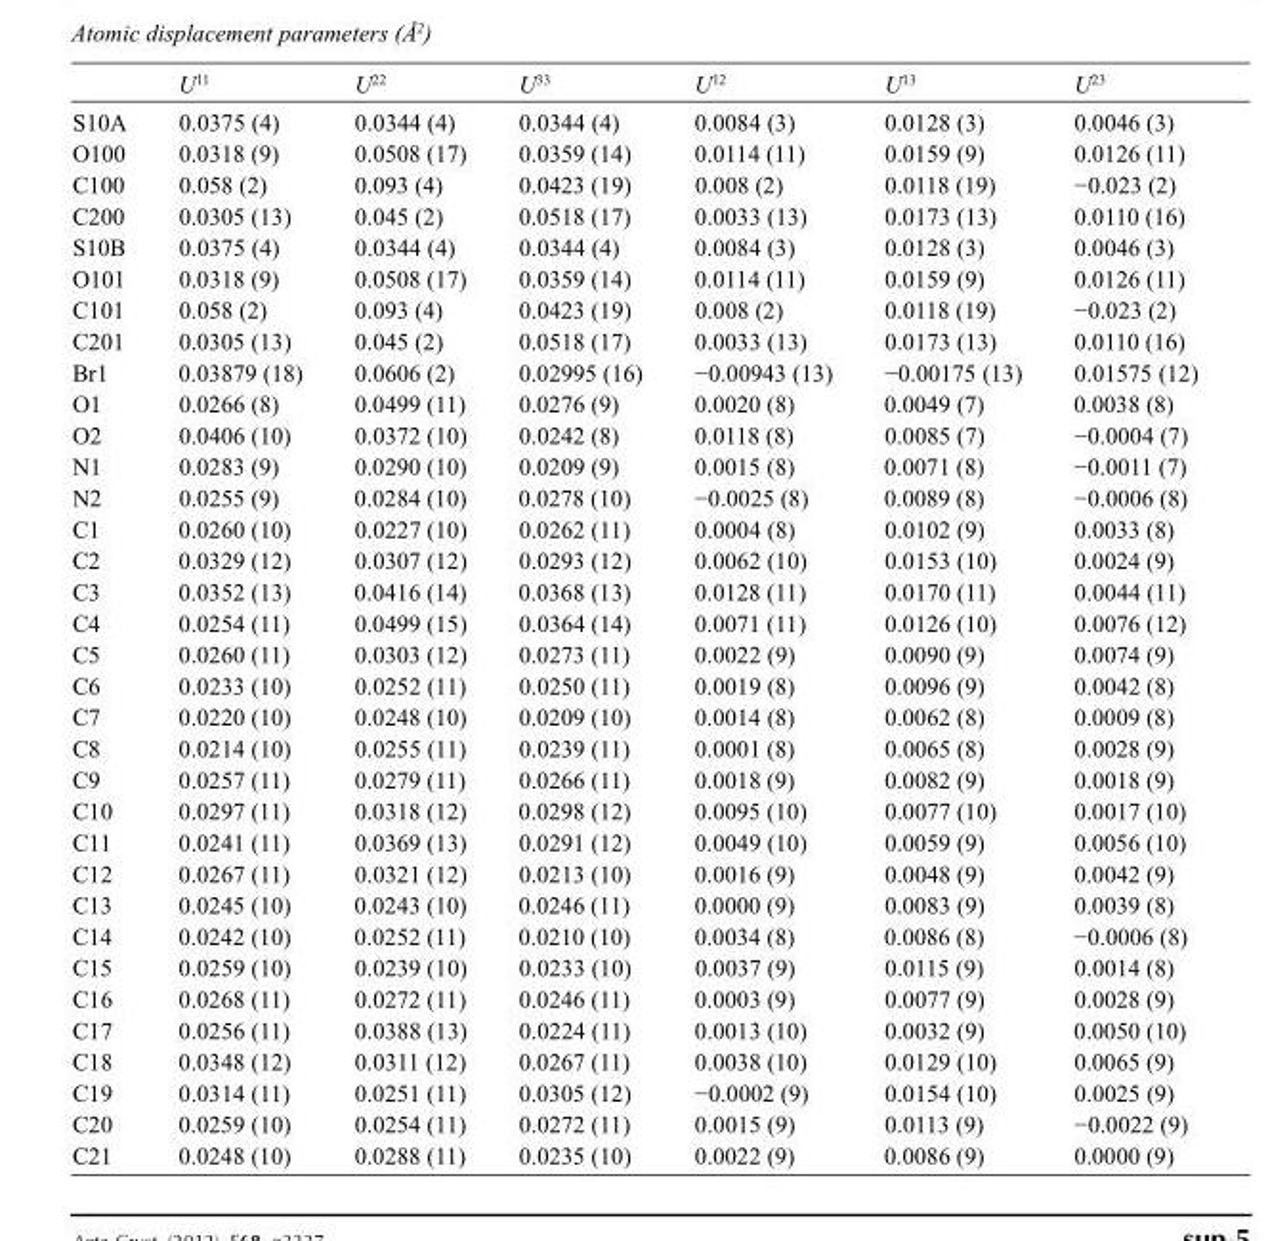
<table><thead><tr><td></td><td>U<sup>11</sup></td><td>U<sup>22</sup></td><td>U<sup>33</sup></td><td>U<sup>12</sup></td><td>U<sup>13</sup></td><td>U<sup>23</sup></td></tr></thead><tbody><tr><td>S10A</td><td>0.0375 (4)</td><td>0.0344 (4)</td><td>0.0344 (4)</td><td>0.0084 (3)</td><td>0.0128 (3)</td><td>0.0046 (3)</td></tr><tr><td>O100</td><td>0.0318 (9)</td><td>0.0508 (17)</td><td>0.0359 (14)</td><td>0.0114 (11)</td><td>0.0159 (9)</td><td>0.0126 (11)</td></tr><tr><td>C100</td><td>0.058 (2)</td><td>0.093 (4)</td><td>0.0423 (19)</td><td>0.008 (2)</td><td>0.0118 (19)</td><td>−0.023 (2)</td></tr><tr><td>C200</td><td>0.0305 (13)</td><td>0.045 (2)</td><td>0.0518 (17)</td><td>0.0033 (13)</td><td>0.0173 (13)</td><td>0.0110 (16)</td></tr><tr><td>S10B</td><td>0.0375 (4)</td><td>0.0344 (4)</td><td>0.0344 (4)</td><td>0.0084 (3)</td><td>0.0128 (3)</td><td>0.0046 (3)</td></tr><tr><td>O101</td><td>0.0318 (9)</td><td>0.0508 (17)</td><td>0.0359 (14)</td><td>0.0114 (11)</td><td>0.0159 (9)</td><td>0.0126 (11)</td></tr><tr><td>C101</td><td>0.058 (2)</td><td>0.093 (4)</td><td>0.0423 (19)</td><td>0.008 (2)</td><td>0.0118 (19)</td><td>−0.023 (2)</td></tr><tr><td>C201</td><td>0.0305 (13)</td><td>0.045 (2)</td><td>0.0518 (17)</td><td>0.0033 (13)</td><td>0.0173 (13)</td><td>0.0110 (16)</td></tr><tr><td>Br1</td><td>0.03879 (18)</td><td>0.0606 (2)</td><td>0.02995 (16)</td><td>−0.00943 (13)</td><td>−0.00175 (13)</td><td>0.01575 (12)</td></tr><tr><td>O1</td><td>0.0266 (8)</td><td>0.0499 (11)</td><td>0.0276 (9)</td><td>0.0020 (8)</td><td>0.0049 (7)</td><td>0.0038 (8)</td></tr><tr><td>O2</td><td>0.0406 (10)</td><td>0.0372 (10)</td><td>0.0242 (8)</td><td>0.0118 (8)</td><td>0.0085 (7)</td><td>−0.0004 (7)</td></tr><tr><td>N1</td><td>0.0283 (9)</td><td>0.0290 (10)</td><td>0.0209 (9)</td><td>0.0015 (8)</td><td>0.0071 (8)</td><td>−0.0011 (7)</td></tr><tr><td>N2</td><td>0.0255 (9)</td><td>0.0284 (10)</td><td>0.0278 (10)</td><td>−0.0025 (8)</td><td>0.0089 (8)</td><td>−0.0006 (8)</td></tr><tr><td>C1</td><td>0.0260 (10)</td><td>0.0227 (10)</td><td>0.0262 (11)</td><td>0.0004 (8)</td><td>0.0102 (9)</td><td>0.0033 (8)</td></tr><tr><td>C2</td><td>0.0329 (12)</td><td>0.0307 (12)</td><td>0.0293 (12)</td><td>0.0062 (10)</td><td>0.0153 (10)</td><td>0.0024 (9)</td></tr><tr><td>C3</td><td>0.0352 (13)</td><td>0.0416 (14)</td><td>0.0368 (13)</td><td>0.0128 (11)</td><td>0.0170 (11)</td><td>0.0044 (11)</td></tr><tr><td>C4</td><td>0.0254 (11)</td><td>0.0499 (15)</td><td>0.0364 (14)</td><td>0.0071 (11)</td><td>0.0126 (10)</td><td>0.0076 (12)</td></tr><tr><td>C5</td><td>0.0260 (11)</td><td>0.0303 (12)</td><td>0.0273 (11)</td><td>0.0022 (9)</td><td>0.0090 (9)</td><td>0.0074 (9)</td></tr><tr><td>C6</td><td>0.0233 (10)</td><td>0.0252 (11)</td><td>0.0250 (11)</td><td>0.0019 (8)</td><td>0.0096 (9)</td><td>0.0042 (8)</td></tr><tr><td>C7</td><td>0.0220 (10)</td><td>0.0248 (10)</td><td>0.0209 (10)</td><td>0.0014 (8)</td><td>0.0062 (8)</td><td>0.0009 (8)</td></tr><tr><td>C8</td><td>0.0214 (10)</td><td>0.0255 (11)</td><td>0.0239 (11)</td><td>0.0001 (8)</td><td>0.0065 (8)</td><td>0.0028 (9)</td></tr><tr><td>C9</td><td>0.0257 (11)</td><td>0.0279 (11)</td><td>0.0266 (11)</td><td>0.0018 (9)</td><td>0.0082 (9)</td><td>0.0018 (9)</td></tr><tr><td>C10</td><td>0.0297 (11)</td><td>0.0318 (12)</td><td>0.0298 (12)</td><td>0.0095 (10)</td><td>0.0077 (10)</td><td>0.0017 (10)</td></tr><tr><td>C11</td><td>0.0241 (11)</td><td>0.0369 (13)</td><td>0.0291 (12)</td><td>0.0049 (10)</td><td>0.0059 (9)</td><td>0.0056 (10)</td></tr><tr><td>C12</td><td>0.0267 (11)</td><td>0.0321 (12)</td><td>0.0213 (10)</td><td>0.0016 (9)</td><td>0.0048 (9)</td><td>0.0042 (9)</td></tr><tr><td>C13</td><td>0.0245 (10)</td><td>0.0243 (10)</td><td>0.0246 (11)</td><td>0.0000 (9)</td><td>0.0083 (9)</td><td>0.0039 (8)</td></tr><tr><td>C14</td><td>0.0242 (10)</td><td>0.0252 (11)</td><td>0.0210 (10)</td><td>0.0034 (8)</td><td>0.0086 (8)</td><td>−0.0006 (8)</td></tr><tr><td>C15</td><td>0.0259 (10)</td><td>0.0239 (10)</td><td>0.0233 (10)</td><td>0.0037 (9)</td><td>0.0115 (9)</td><td>0.0014 (8)</td></tr><tr><td>C16</td><td>0.0268 (11)</td><td>0.0272 (11)</td><td>0.0246 (11)</td><td>0.0003 (9)</td><td>0.0077 (9)</td><td>0.0028 (9)</td></tr><tr><td>C17</td><td>0.0256 (11)</td><td>0.0388 (13)</td><td>0.0224 (11)</td><td>0.0013 (10)</td><td>0.0032 (9)</td><td>0.0050 (10)</td></tr><tr><td>C18</td><td>0.0348 (12)</td><td>0.0311 (12)</td><td>0.0267 (11)</td><td>0.0038 (10)</td><td>0.0129 (10)</td><td>0.0065 (9)</td></tr><tr><td>C19</td><td>0.0314 (11)</td><td>0.0251 (11)</td><td>0.0305 (12)</td><td>−0.0002 (9)</td><td>0.0154 (10)</td><td>0.0025 (9)</td></tr><tr><td>C20</td><td>0.0259 (10)</td><td>0.0254 (11)</td><td>0.0272 (11)</td><td>0.0015 (9)</td><td>0.0113 (9)</td><td>−0.0022 (9)</td></tr><tr><td>C21</td><td>0.0248 (10)</td><td>0.0288 (11)</td><td>0.0235 (10)</td><td>0.0022 (9)</td><td>0.0086 (9)</td><td>0.0000 (9)</td></tr></tbody></table>